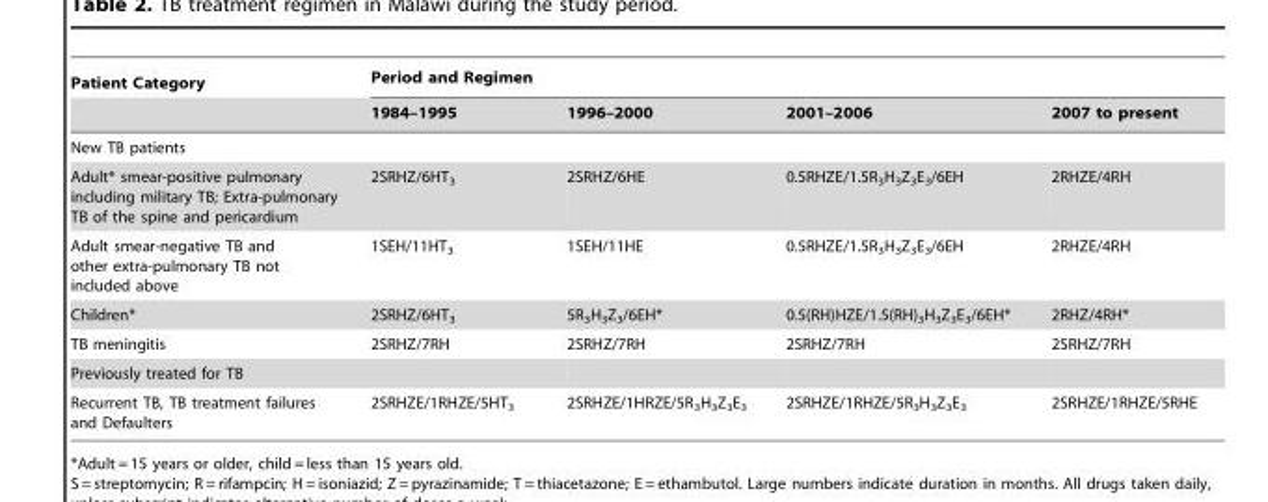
<table><thead><tr><td rowspan="2">Patient Category</td><td colspan="4">Period and Regimen</td></tr><tr><td>1984–1995</td><td>1996–2000</td><td>2001–2006</td><td>2007 to present</td></tr></thead><tbody><tr><td colspan="5">New TB patients</td></tr><tr><td>Adult* smear-positive pulmonary including military TB; Extra-pulmonary TB of the spine and pericardium</td><td>2SRHZ/6HT<sub>3</sub></td><td>2SRHZ/6HE</td><td>0.5RHZE/1.5R<sub>3</sub>H<sub>3</sub>Z<sub>3</sub>E<sub>3</sub>/6EH</td><td>2RHZE/4RH</td></tr><tr><td>Adult smear-negative TB and other extra-pulmonary TB not included above</td><td>1SEH/11HT<sub>3</sub></td><td>1SEH/11HE</td><td>0.5RHZE/1.5R<sub>3</sub>H<sub>3</sub>Z<sub>3</sub>E<sub>3</sub>/6EH</td><td>2RHZE/4RH</td></tr><tr><td>Children*</td><td>2SRHZ/6HT<sub>3</sub></td><td>5R<sub>3</sub>H<sub>3</sub>Z<sub>3</sub>/6EH*</td><td>0.5(RH)HZE/1.5(RH)<sub>3</sub>H<sub>3</sub>Z<sub>3</sub>E<sub>3</sub>/6EH*</td><td>2RHZ/4RH*</td></tr><tr><td>TB meningitis</td><td>2SRHZ/7RH</td><td>2SRHZ/7RH</td><td>2SRHZ/7RH</td><td>2SRHZ/7RH</td></tr><tr><td colspan="5">Previously treated for TB</td></tr><tr><td>Recurrent TB, TB treatment failures and Defaulters</td><td>2SRHZE/1RHZE/5HT<sub>3</sub></td><td>2SRHZE/1HRZE/5R<sub>3</sub>H<sub>3</sub>Z<sub>3</sub>E<sub>3</sub></td><td>2SRHZE/1RHZE/5R<sub>3</sub>H<sub>3</sub>Z<sub>3</sub>E<sub>3</sub></td><td>2SRHZE/1RHZE/5RHE</td></tr></tbody></table>